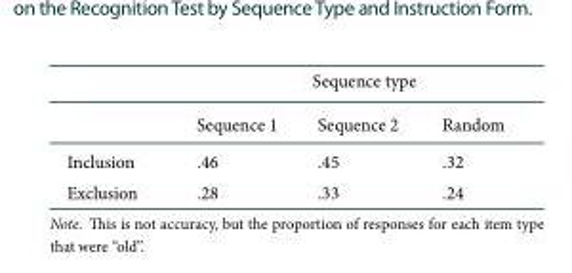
<table><thead><tr><td rowspan="2"></td><td colspan="3">Sequence type</td></tr><tr><td>Sequence 1</td><td>Sequence 2</td><td>Random</td></tr></thead><tbody><tr><td>Inclusion</td><td>.46</td><td>.45</td><td>.32</td></tr><tr><td>Exclusion</td><td>.28</td><td>.33</td><td>.24</td></tr></tbody></table>